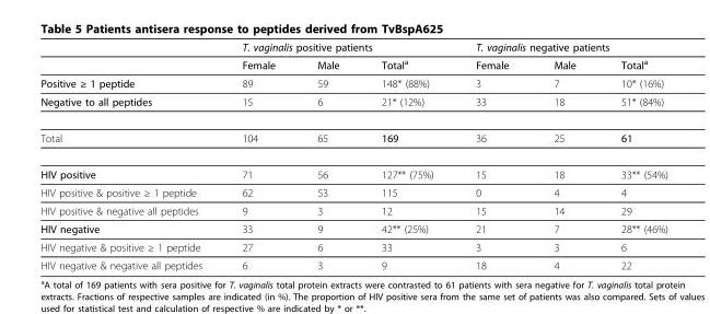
<table><thead><tr><td rowspan="2"></td><td colspan="3">T. vaginalis positive patients</td><td colspan="3">T. vaginalis negative patients</td></tr><tr><td>Female</td><td>Male</td><td>Totala</td><td>Female</td><td>Male</td><td>Totala</td></tr></thead><tbody><tr><td>Positive ≥ 1 peptide</td><td>89</td><td>59</td><td>148* (88%)</td><td>3</td><td>7</td><td>10* (16%)</td></tr><tr><td>Negative to all peptides</td><td>15</td><td>6</td><td>21* (12%)</td><td>33</td><td>18</td><td>51* (84%)</td></tr><tr><td>Total</td><td>104</td><td>65</td><td>169</td><td>36</td><td>25</td><td>61</td></tr><tr><td>HIV positive</td><td>71</td><td>56</td><td>127** (75%)</td><td>15</td><td>18</td><td>33** (54%)</td></tr><tr><td>HIV positive &amp; positive ≥ 1 peptide</td><td>62</td><td>53</td><td>115</td><td>0</td><td>4</td><td>4</td></tr><tr><td>HIV positive &amp; negative all peptides</td><td>9</td><td>3</td><td>12</td><td>15</td><td>14</td><td>29</td></tr><tr><td>HIV negative</td><td>33</td><td>9</td><td>42** (25%)</td><td>21</td><td>7</td><td>28** (46%)</td></tr><tr><td>HIV negative &amp; positive ≥ 1 peptide</td><td>27</td><td>6</td><td>33</td><td>3</td><td>3</td><td>6</td></tr><tr><td>HIV negative &amp; negative all peptides</td><td>6</td><td>3</td><td>9</td><td>18</td><td>4</td><td>22</td></tr></tbody></table>